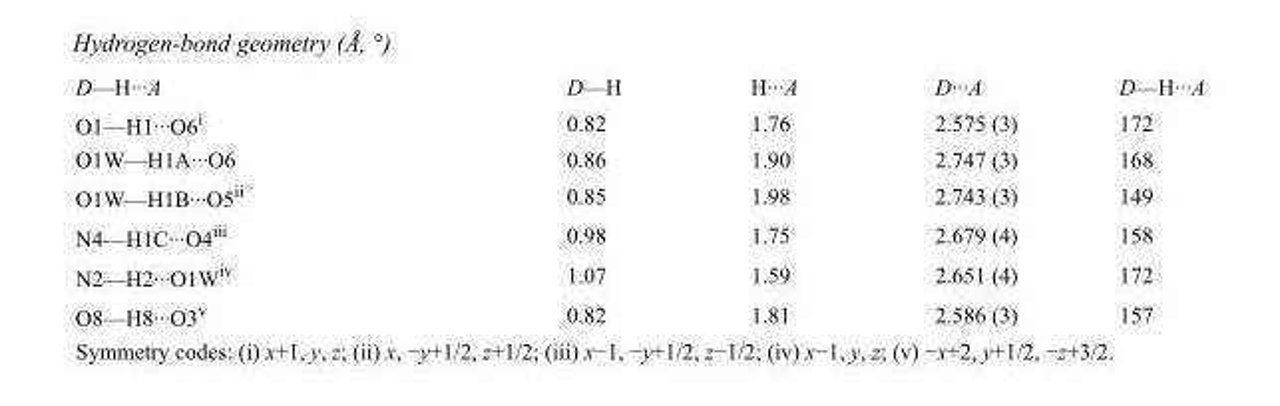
<table><tbody><tr><td>D—H···A</td><td>D—H</td><td>H···A</td><td>D···A</td><td>D—H···A</td></tr><tr><td>O1—H1···O6<sup>i</sup></td><td>0.82</td><td>1.76</td><td>2.575 (3)</td><td>172</td></tr><tr><td>O1W—H1A···O6</td><td>0.86</td><td>1.90</td><td>2.747 (3)</td><td>168</td></tr><tr><td>O1W—H1B···O5<sup>ii</sup></td><td>0.85</td><td>1.98</td><td>2.743 (3)</td><td>149</td></tr><tr><td>N4—H1C···O4<sup>iii</sup></td><td>0.98</td><td>1.75</td><td>2.679 (4)</td><td>158</td></tr><tr><td>N2—H2···O1W<sup>iv</sup></td><td>1.07</td><td>1.59</td><td>2.651 (4)</td><td>172</td></tr><tr><td>O8—H8···O3<sup>v</sup></td><td>0.82</td><td>1.81</td><td>2.586 (3)</td><td>157</td></tr></tbody></table>